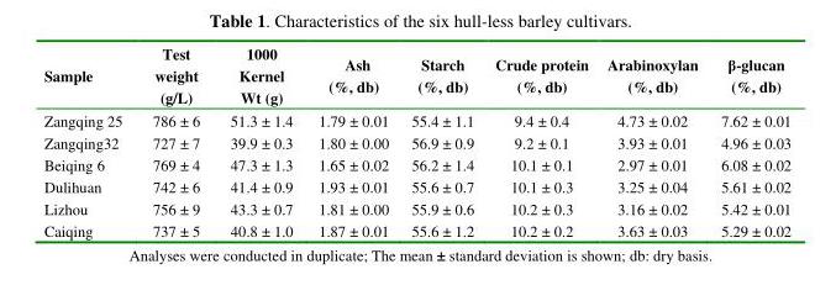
<table><thead><tr><td>Sample</td><td>Test weight (g/L)</td><td>1000 Kernel Wt (g)</td><td>Ash (%, db)</td><td>Starch (%, db)</td><td>Crude protein (%, db)</td><td>Arabinoxylan (%, db)</td><td>β-glucan (%, db)</td></tr></thead><tbody><tr><td>Zangqing 25</td><td>786 ± 6</td><td>51.3 ± 1.4</td><td>1.79 ± 0.01</td><td>55.4 ± 1.1</td><td>9.4 ± 0.4</td><td>4.73 ± 0.02</td><td>7.62 ± 0.01</td></tr><tr><td>Zangqing32</td><td>727 ± 7</td><td>39.9 ± 0.3</td><td>1.80 ± 0.00</td><td>56.9 ± 0.9</td><td>9.2 ± 0.1</td><td>3.93 ± 0.01</td><td>4.96 ± 0.03</td></tr><tr><td>Beiqing 6</td><td>769 ± 4</td><td>47.3 ± 1.3</td><td>1.65 ± 0.02</td><td>56.2 ± 1.4</td><td>10.1 ± 0.1</td><td>2.97 ± 0.01</td><td>6.08 ± 0.02</td></tr><tr><td>Dulihuan</td><td>742 ± 6</td><td>41.4 ± 0.9</td><td>1.93 ± 0.01</td><td>55.6 ± 0.7</td><td>10.1 ± 0.3</td><td>3.25 ± 0.04</td><td>5.61 ± 0.02</td></tr><tr><td>Lizhou</td><td>756 ± 9</td><td>43.3 ± 0.7</td><td>1.81 ± 0.00</td><td>55.9 ± 0.6</td><td>10.2 ± 0.3</td><td>3.16 ± 0.02</td><td>5.42 ± 0.01</td></tr><tr><td>Caiqing</td><td>737 ± 5</td><td>40.8 ± 1.0</td><td>1.87 ± 0.01</td><td>55.6 ± 1.2</td><td>10.2 ± 0.2</td><td>3.63 ± 0.03</td><td>5.29 ± 0.02</td></tr></tbody></table>